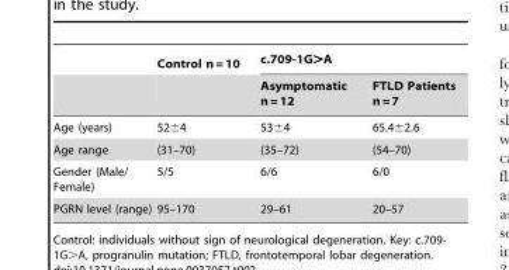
<table><thead><tr><td rowspan="2"></td><td rowspan="2">Control n = 10</td><td colspan="2">c.709-1G&gt;A</td></tr><tr><td>Asymptomatic n = 12</td><td>FTLD Patients n = 7</td></tr></thead><tbody><tr><td>Age (years)</td><td>52±4</td><td>53±4</td><td>65.4±2.6</td></tr><tr><td>Age range</td><td>(31–70)</td><td>(35–72)</td><td>(54–70)</td></tr><tr><td>Gender (Male/ Female)</td><td>5/5</td><td>6/6</td><td>6/0</td></tr><tr><td>PGRN level (range)</td><td>95–170</td><td>29–61</td><td>20–57</td></tr></tbody></table>